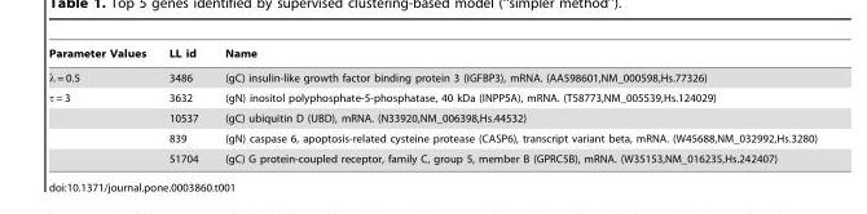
<table><thead><tr><td>Parameter Values</td><td>LL id</td><td>Name</td></tr></thead><tbody><tr><td>λ = 0.5</td><td>3486</td><td>(gC) insulin-like growth factor binding protein 3 (IGFBP3), mRNA. (AA598601,NM_000598,Hs.77326)</td></tr><tr><td rowspan="4">τ = 3</td><td>3632</td><td>(gN) inositol polyphosphate-5-phosphatase, 40 kDa (INPP5A), mRNA. (T58773,NM_005539,Hs.124029)</td></tr><tr><td>10537</td><td>(gC) ubiquitin D (UBD), mRNA. (N33920,NM_006398,Hs.44532)</td></tr><tr><td>839</td><td>(gN) caspase 6, apoptosis-related cysteine protease (CASP6), transcript variant beta, mRNA. (W45688,NM_032992,Hs.3280)</td></tr><tr><td>51704</td><td>(gC) G protein-coupled receptor, family C, group 5, member B (GPRC5B), mRNA. (W35153,NM_016235,Hs.242407)</td></tr></tbody></table>